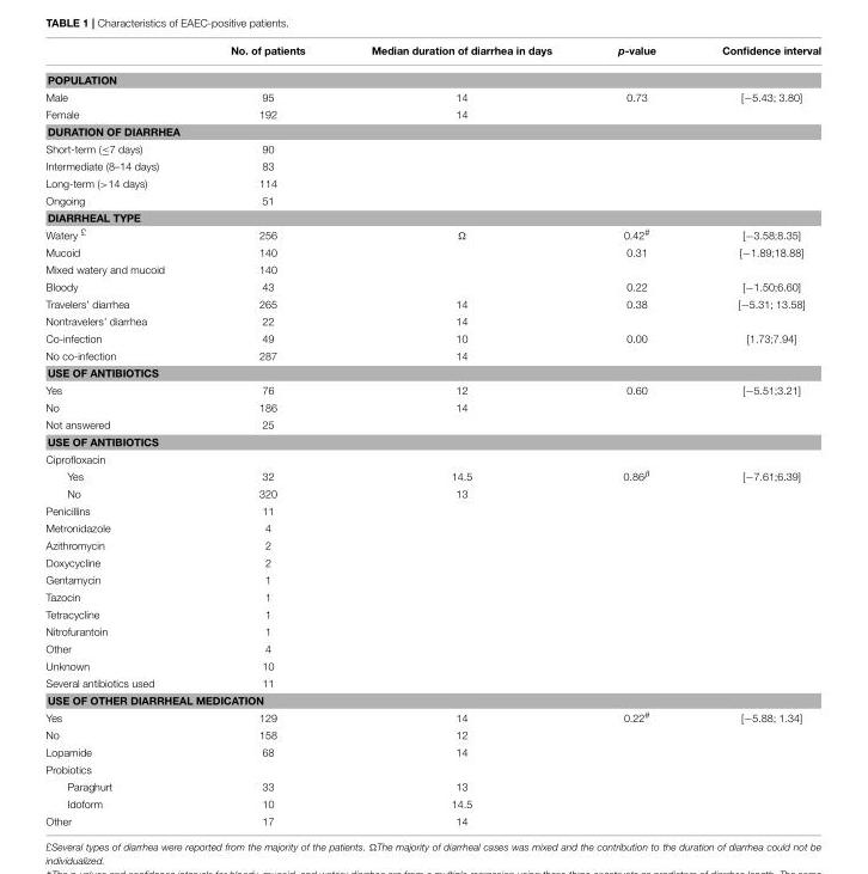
<table><thead><tr><td></td><td>No. of patients</td><td>Median duration of diarrhea in days</td><td>p-value</td><td>Confidence interval</td></tr></thead><tbody><tr><td colspan="5">POPULATION</td></tr><tr><td>Male</td><td>95</td><td>14</td><td>0.73</td><td>[−5.43; 3.80]</td></tr><tr><td>Female</td><td>192</td><td>14</td><td></td><td></td></tr><tr><td colspan="5">DURATION OF DIARRHEA</td></tr><tr><td>Short-term (≤7 days)</td><td>90</td><td></td><td></td><td></td></tr><tr><td>Intermediate (8–14 days)</td><td>83</td><td></td><td></td><td></td></tr><tr><td>Long-term (&gt;14 days)</td><td>114</td><td></td><td></td><td></td></tr><tr><td>Ongoing</td><td>51</td><td></td><td></td><td></td></tr><tr><td colspan="5">DIARRHEAL TYPE</td></tr><tr><td>Watery <sup>£</sup></td><td>256</td><td><sup>Ω</sup></td><td>0.42<sup>#</sup></td><td>[−3.58;8.35]</td></tr><tr><td>Mucoid</td><td>140</td><td></td><td>0.31</td><td>[−1.89;18.88]</td></tr><tr><td>Mixed watery and mucoid</td><td>140</td><td></td><td></td><td></td></tr><tr><td>Bloody</td><td>43</td><td></td><td>0.22</td><td>[−1.50;6.60]</td></tr><tr><td>Travelers’ diarrhea</td><td>265</td><td>14</td><td>0.38</td><td>[−5.31; 13.58]</td></tr><tr><td>Nontravelers’ diarrhea</td><td>22</td><td>14</td><td></td><td></td></tr><tr><td>Co-infection</td><td>49</td><td>10</td><td>0.00</td><td>[1.73;7.94]</td></tr><tr><td>No co-infection</td><td>287</td><td>14</td><td></td><td></td></tr><tr><td colspan="5">USE OF ANTIBIOTICS</td></tr><tr><td>Yes</td><td>76</td><td>12</td><td>0.60</td><td>[−5.51;3.21]</td></tr><tr><td>No</td><td>186</td><td>14</td><td></td><td></td></tr><tr><td>Not answered</td><td>25</td><td></td><td></td><td></td></tr><tr><td colspan="5">USE OF ANTIBIOTICS</td></tr><tr><td colspan="5">Ciprofloxacin</td></tr><tr><td>Yes</td><td>32</td><td>14.5</td><td>0.86<sup>β</sup></td><td>[−7.61;6.39]</td></tr><tr><td>No</td><td>320</td><td>13</td><td></td><td></td></tr><tr><td>Penicillins</td><td>11</td><td></td><td></td><td></td></tr><tr><td>Metronidazole</td><td>4</td><td></td><td></td><td></td></tr><tr><td>Azithromycin</td><td>2</td><td></td><td></td><td></td></tr><tr><td>Doxycycline</td><td>2</td><td></td><td></td><td></td></tr><tr><td>Gentamycin</td><td>1</td><td></td><td></td><td></td></tr><tr><td>Tazocin</td><td>1</td><td></td><td></td><td></td></tr><tr><td>Tetracycline</td><td>1</td><td></td><td></td><td></td></tr><tr><td>Nitrofurantoin</td><td>1</td><td></td><td></td><td></td></tr><tr><td>Other</td><td>4</td><td></td><td></td><td></td></tr><tr><td>Unknown</td><td>10</td><td></td><td></td><td></td></tr><tr><td>Several antibiotics used</td><td>11</td><td></td><td></td><td></td></tr><tr><td colspan="5">USE OF OTHER DIARRHEAL MEDICATION</td></tr><tr><td>Yes</td><td>129</td><td>14</td><td>0.22<sup>#</sup></td><td>[−5.88; 1.34]</td></tr><tr><td>No</td><td>158</td><td>12</td><td></td><td></td></tr><tr><td>Lopamide</td><td>68</td><td>14</td><td></td><td></td></tr><tr><td colspan="5">Probiotics</td></tr><tr><td>Paraghurt</td><td>33</td><td>13</td><td></td><td></td></tr><tr><td>Idoform</td><td>10</td><td>14.5</td><td></td><td></td></tr><tr><td>Other</td><td>17</td><td>14</td><td></td><td></td></tr></tbody></table>